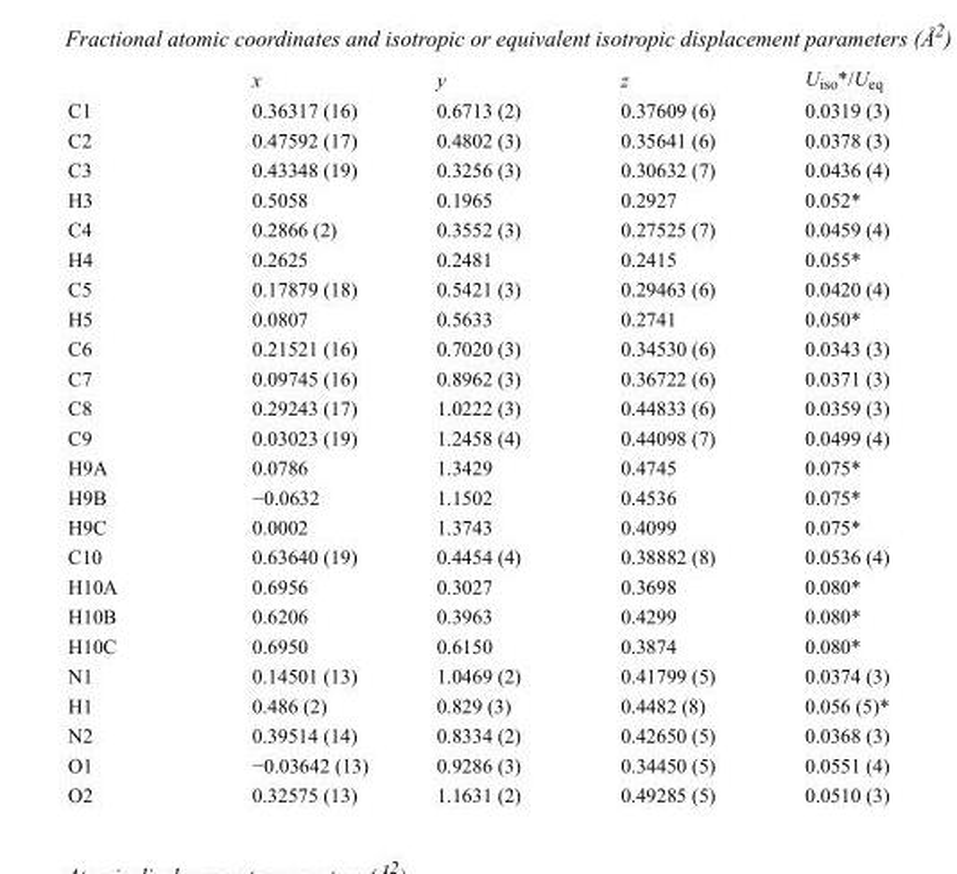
<table><thead><tr><td></td><td>x</td><td>y</td><td>z</td><td>U<sub>iso</sub>*/U<sub>eq</sub></td></tr></thead><tbody><tr><td>C1</td><td>0.36317 (16)</td><td>0.6713 (2)</td><td>0.37609 (6)</td><td>0.0319 (3)</td></tr><tr><td>C2</td><td>0.47592 (17)</td><td>0.4802 (3)</td><td>0.35641 (6)</td><td>0.0378 (3)</td></tr><tr><td>C3</td><td>0.43348 (19)</td><td>0.3256 (3)</td><td>0.30632 (7)</td><td>0.0436 (4)</td></tr><tr><td>H3</td><td>0.5058</td><td>0.1965</td><td>0.2927</td><td>0.052*</td></tr><tr><td>C4</td><td>0.2866 (2)</td><td>0.3552 (3)</td><td>0.27525 (7)</td><td>0.0459 (4)</td></tr><tr><td>H4</td><td>0.2625</td><td>0.2481</td><td>0.2415</td><td>0.055*</td></tr><tr><td>C5</td><td>0.17879 (18)</td><td>0.5421 (3)</td><td>0.29463 (6)</td><td>0.0420 (4)</td></tr><tr><td>H5</td><td>0.0807</td><td>0.5633</td><td>0.2741</td><td>0.050*</td></tr><tr><td>C6</td><td>0.21521 (16)</td><td>0.7020 (3)</td><td>0.34530 (6)</td><td>0.0343 (3)</td></tr><tr><td>C7</td><td>0.09745 (16)</td><td>0.8962 (3)</td><td>0.36722 (6)</td><td>0.0371 (3)</td></tr><tr><td>C8</td><td>0.29243 (17)</td><td>1.0222 (3)</td><td>0.44833 (6)</td><td>0.0359 (3)</td></tr><tr><td>C9</td><td>0.03023 (19)</td><td>1.2458 (4)</td><td>0.44098 (7)</td><td>0.0499 (4)</td></tr><tr><td>H9A</td><td>0.0786</td><td>1.3429</td><td>0.4745</td><td>0.075*</td></tr><tr><td>H9B</td><td>−0.0632</td><td>1.1502</td><td>0.4536</td><td>0.075*</td></tr><tr><td>H9C</td><td>0.0002</td><td>1.3743</td><td>0.4099</td><td>0.075*</td></tr><tr><td>C10</td><td>0.63640 (19)</td><td>0.4454 (4)</td><td>0.38882 (8)</td><td>0.0536 (4)</td></tr><tr><td>H10A</td><td>0.6956</td><td>0.3027</td><td>0.3698</td><td>0.080*</td></tr><tr><td>H10B</td><td>0.6206</td><td>0.3963</td><td>0.4299</td><td>0.080*</td></tr><tr><td>H10C</td><td>0.6950</td><td>0.6150</td><td>0.3874</td><td>0.080*</td></tr><tr><td>N1</td><td>0.14501 (13)</td><td>1.0469 (2)</td><td>0.41799 (5)</td><td>0.0374 (3)</td></tr><tr><td>H1</td><td>0.486 (2)</td><td>0.829 (3)</td><td>0.4482 (8)</td><td>0.056 (5)*</td></tr><tr><td>N2</td><td>0.39514 (14)</td><td>0.8334 (2)</td><td>0.42650 (5)</td><td>0.0368 (3)</td></tr><tr><td>O1</td><td>−0.03642 (13)</td><td>0.9286 (3)</td><td>0.34450 (5)</td><td>0.0551 (4)</td></tr><tr><td>O2</td><td>0.32575 (13)</td><td>1.1631 (2)</td><td>0.49285 (5)</td><td>0.0510 (3)</td></tr></tbody></table>